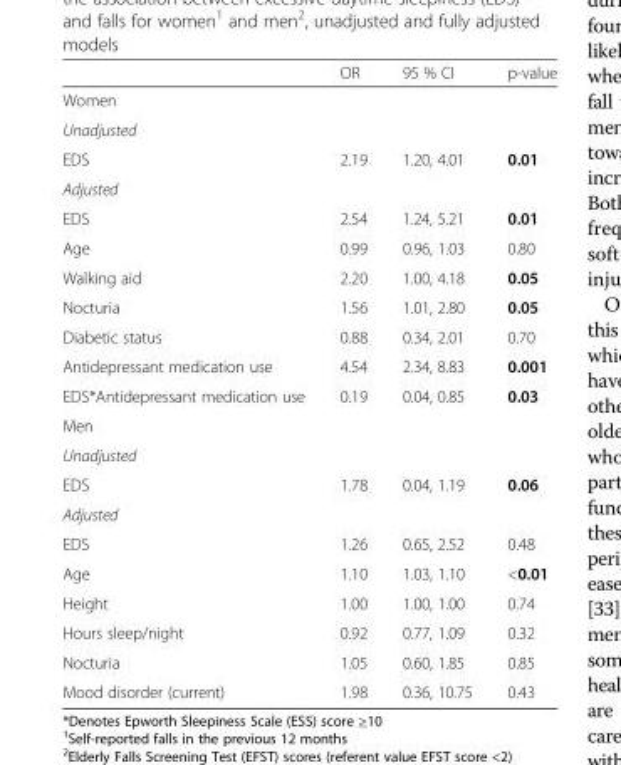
<table><thead><tr><td></td><td>OR</td><td>95 % CI</td><td>p-value</td></tr></thead><tbody><tr><td colspan="4">Women</td></tr><tr><td colspan="4">Unadjusted</td></tr><tr><td>EDS</td><td>2.19</td><td>1.20, 4.01</td><td>0.01</td></tr><tr><td colspan="4">Adjusted</td></tr><tr><td>EDS</td><td>2.54</td><td>1.24, 5.21</td><td>0.01</td></tr><tr><td>Age</td><td>0.99</td><td>0.96, 1.03</td><td>0.80</td></tr><tr><td>Walking aid</td><td>2.20</td><td>1.00, 4.18</td><td>0.05</td></tr><tr><td>Nocturia</td><td>1.56</td><td>1.01, 2.80</td><td>0.05</td></tr><tr><td>Diabetic status</td><td>0.88</td><td>0.34, 2.01</td><td>0.70</td></tr><tr><td>Antidepressant medication use</td><td>4.54</td><td>2.34, 8.83</td><td>0.001</td></tr><tr><td>EDS*Antidepressant medication use</td><td>0.19</td><td>0.04, 0.85</td><td>0.03</td></tr><tr><td colspan="4">Men</td></tr><tr><td colspan="4">Unadjusted</td></tr><tr><td>EDS</td><td>1.78</td><td>0.04, 1.19</td><td>0.06</td></tr><tr><td colspan="4">Adjusted</td></tr><tr><td>EDS</td><td>1.26</td><td>0.65, 2.52</td><td>0.48</td></tr><tr><td>Age</td><td>1.10</td><td>1.03, 1.10</td><td>&lt;0.01</td></tr><tr><td>Height</td><td>1.00</td><td>1.00, 1.00</td><td>0.74</td></tr><tr><td>Hours sleep/night</td><td>0.92</td><td>0.77, 1.09</td><td>0.32</td></tr><tr><td>Nocturia</td><td>1.05</td><td>0.60, 1.85</td><td>0.85</td></tr><tr><td>Mood disorder (current)</td><td>1.98</td><td>0.36, 10.75</td><td>0.43</td></tr></tbody></table>